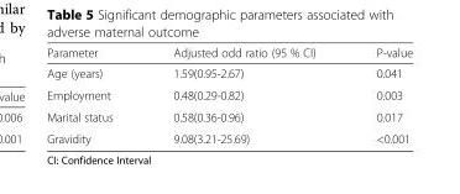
<table><thead><tr><td>Parameter</td><td>Adjusted odd ratio (95 % CI)</td><td>P-value</td></tr></thead><tbody><tr><td>Age (years)</td><td>1.59(0.95-2.67)</td><td>0.041</td></tr><tr><td>Employment</td><td>0.48(0.29-0.82)</td><td>0.003</td></tr><tr><td>Marital status</td><td>0.58(0.36-0.96)</td><td>0.017</td></tr><tr><td>Gravidity</td><td>9.08(3.21-25.69)</td><td>&lt;0.001</td></tr></tbody></table>